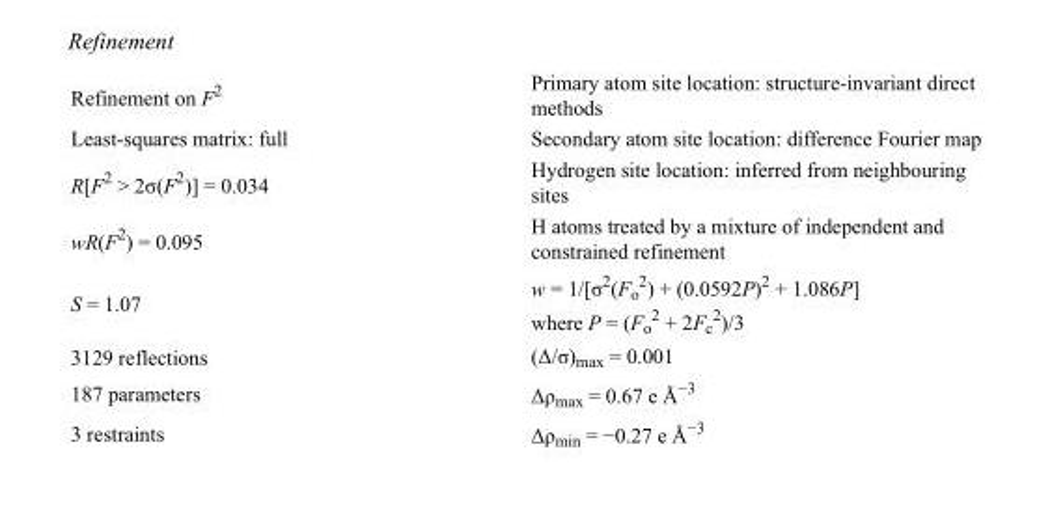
<table><tbody><tr><td>Refinement on F<sup>2</sup></td><td>Primary atom site location: structure-invariant direct methods</td></tr><tr><td>Least-squares matrix: full</td><td>Secondary atom site location: difference Fourier map</td></tr><tr><td>R[F<sup>2</sup> &gt; 2σ(F<sup>2</sup>)] = 0.034</td><td>Hydrogen site location: inferred from neighbouring sites</td></tr><tr><td>wR(F<sup>2</sup>) = 0.095</td><td>H atoms treated by a mixture of independent and constrained refinement</td></tr><tr><td>S = 1.07</td><td>w = 1/[σ<sup>2</sup>(F<sub>o</sub> <sup>2</sup>) + (0.0592P)<sup>2</sup> + 1.086P] where P = (F<sub>o</sub> <sup>2</sup> + 2F<sub>c</sub> <sup>2</sup>)/3</td></tr><tr><td>3129 reflections</td><td>(Δ/σ)<sub>max</sub> = 0.001</td></tr><tr><td>187 parameters</td><td>Δρ<sub>max</sub> = 0.67 e Å<sup>−3</sup></td></tr><tr><td>3 restraints</td><td>Δρ<sub>min</sub> = −0.27 e Å<sup>−3</sup></td></tr></tbody></table>